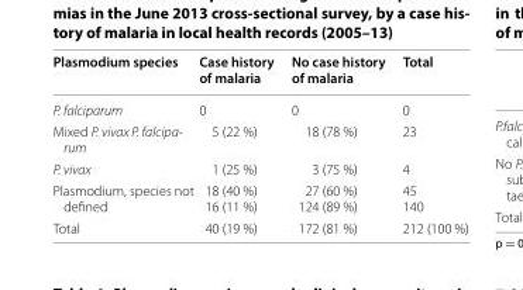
<table><thead><tr><td>Plasmodium species</td><td>Case history of malaria</td><td>No case history of malaria</td><td>Total</td></tr></thead><tbody><tr><td>P. falciparum</td><td>0</td><td>0</td><td>0</td></tr><tr><td>Mixed P. vivax P. falcipa- rum</td><td>5 (22 %)</td><td>18 (78 %)</td><td>23</td></tr><tr><td>P. vivax</td><td>1 (25 %)</td><td>3 (75 %)</td><td>4</td></tr><tr><td>Plasmodium, species not defined</td><td>18 (40 %) 16 (11 %)</td><td>27 (60 %) 124 (89 %)</td><td>45 140</td></tr><tr><td>Total</td><td>40 (19 %)</td><td>172 (81 %)</td><td>212 (100 %)</td></tr></tbody></table>